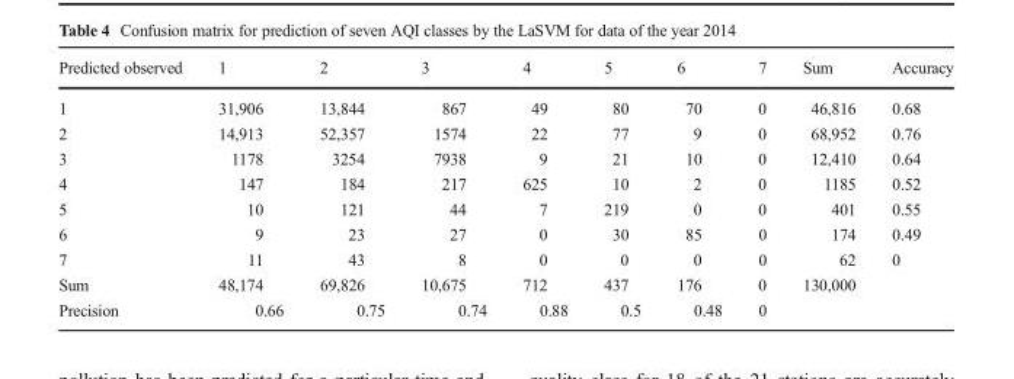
<table><thead><tr><td>Predicted observed</td><td>1</td><td>2</td><td>3</td><td>4</td><td>5</td><td>6</td><td>7</td><td>Sum</td><td>Accuracy</td></tr></thead><tbody><tr><td>1</td><td>31,906</td><td>13,844</td><td>867</td><td>49</td><td>80</td><td>70</td><td>0</td><td>46,816</td><td>0.68</td></tr><tr><td>2</td><td>14,913</td><td>52,357</td><td>1574</td><td>22</td><td>77</td><td>9</td><td>0</td><td>68,952</td><td>0.76</td></tr><tr><td>3</td><td>1178</td><td>3254</td><td>7938</td><td>9</td><td>21</td><td>10</td><td>0</td><td>12,410</td><td>0.64</td></tr><tr><td>4</td><td>147</td><td>184</td><td>217</td><td>625</td><td>10</td><td>2</td><td>0</td><td>1185</td><td>0.52</td></tr><tr><td>5</td><td>10</td><td>121</td><td>44</td><td>7</td><td>219</td><td>0</td><td>0</td><td>401</td><td>0.55</td></tr><tr><td>6</td><td>9</td><td>23</td><td>27</td><td>0</td><td>30</td><td>85</td><td>0</td><td>174</td><td>0.49</td></tr><tr><td>7</td><td>11</td><td>43</td><td>8</td><td>0</td><td>0</td><td>0</td><td>0</td><td>62</td><td>0</td></tr><tr><td>Sum</td><td>48,174</td><td>69,826</td><td>10,675</td><td>712</td><td>437</td><td>176</td><td>0</td><td>130,000</td><td></td></tr><tr><td>Precision</td><td>0.66</td><td>0.75</td><td>0.74</td><td>0.88</td><td>0.5</td><td>0.48</td><td>0</td><td></td><td></td></tr></tbody></table>